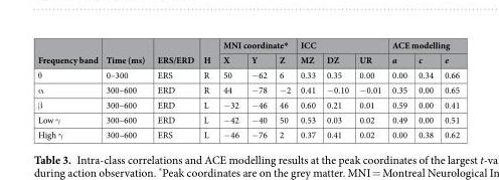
<table><thead><tr><td rowspan="2">Frequency band</td><td rowspan="2">Time (ms)</td><td rowspan="2">ERS/ERD</td><td rowspan="2">H</td><td colspan="3">MNI coordinate*</td><td colspan="3">ICC</td><td colspan="3">ACE modelling</td></tr><tr><td>X</td><td>Y</td><td>Z</td><td>MZ</td><td>DZ</td><td>UR</td><td>a</td><td>c</td><td>e</td></tr></thead><tbody><tr><td>θ</td><td>0–300</td><td>ERS</td><td>R</td><td>50</td><td>−62</td><td>6</td><td>0.33</td><td>0.35</td><td>0.00</td><td>0.00</td><td>0.34</td><td>0.66</td></tr><tr><td>α</td><td>300–600</td><td>ERD</td><td>R</td><td>44</td><td>−78</td><td>−2</td><td>0.41</td><td>−0.10</td><td>−0.01</td><td>0.35</td><td>0.00</td><td>0.65</td></tr><tr><td>β</td><td>300–600</td><td>ERD</td><td>L</td><td>−32</td><td>−46</td><td>46</td><td>0.60</td><td>0.21</td><td>0.01</td><td>0.59</td><td>0.00</td><td>0.41</td></tr><tr><td>Low γ</td><td>300–600</td><td>ERD</td><td>L</td><td>−42</td><td>−40</td><td>50</td><td>0.53</td><td>0.03</td><td>0.02</td><td>0.49</td><td>0.00</td><td>0.51</td></tr><tr><td>High γ</td><td>300–600</td><td>ERS</td><td>L</td><td>−46</td><td>−76</td><td>2</td><td>0.37</td><td>0.41</td><td>0.02</td><td>0.00</td><td>0.38</td><td>0.62</td></tr></tbody></table>